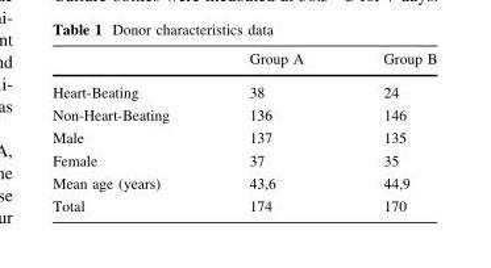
<table><thead><tr><td></td><td>Group A</td><td>Group B</td></tr></thead><tbody><tr><td>Heart-Beating</td><td>38</td><td>24</td></tr><tr><td>Non-Heart-Beating</td><td>136</td><td>146</td></tr><tr><td>Male</td><td>137</td><td>135</td></tr><tr><td>Female</td><td>37</td><td>35</td></tr><tr><td>Mean age (years)</td><td>43,6</td><td>44,9</td></tr><tr><td>Total</td><td>174</td><td>170</td></tr></tbody></table>